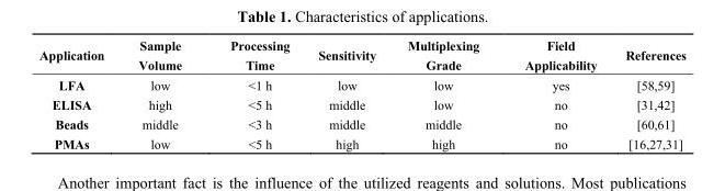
<table><thead><tr><td>Application</td><td>Sample Volume</td><td>Processing Time</td><td>Sensitivity</td><td>Multiplexing Grade</td><td>Field Applicability</td><td>References</td></tr></thead><tbody><tr><td>LFA</td><td>low</td><td>&lt;1 h</td><td>low</td><td>low</td><td>yes</td><td>[58,59]</td></tr><tr><td>ELISA</td><td>high</td><td>&lt;5 h</td><td>middle</td><td>low</td><td>no</td><td>[31,42]</td></tr><tr><td>Beads</td><td>middle</td><td>&lt;3 h</td><td>middle</td><td>middle</td><td>no</td><td>[60,61]</td></tr><tr><td>PMAs</td><td>low</td><td>&lt;5 h</td><td>high</td><td>high</td><td>no</td><td>[16,27,31]</td></tr></tbody></table>